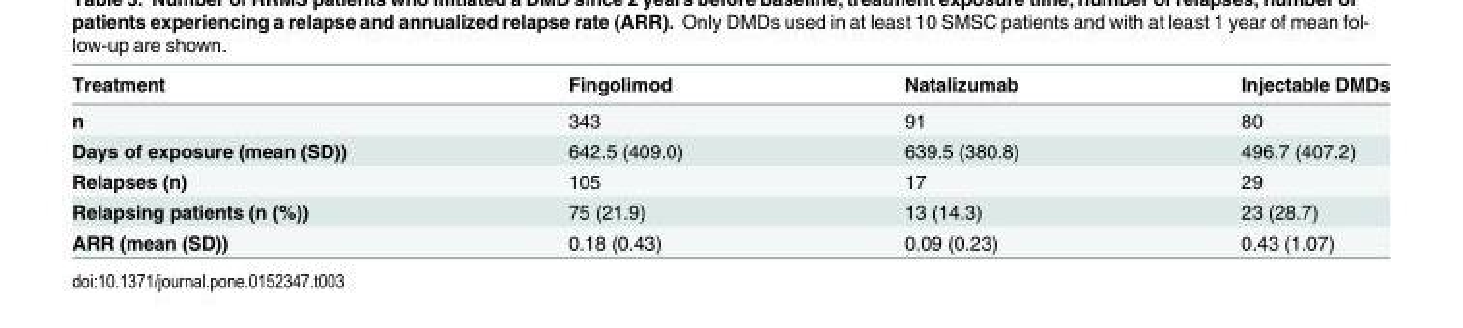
<table><thead><tr><td>Treatment</td><td>Fingolimod</td><td>Natalizumab</td><td>Injectable DMDs</td></tr></thead><tbody><tr><td>n</td><td>343</td><td>91</td><td>80</td></tr><tr><td>Days of exposure (mean (SD))</td><td>642.5 (409.0)</td><td>639.5 (380.8)</td><td>496.7 (407.2)</td></tr><tr><td>Relapses (n)</td><td>105</td><td>17</td><td>29</td></tr><tr><td>Relapsing patients (n (%))</td><td>75 (21.9)</td><td>13 (14.3)</td><td>23 (28.7)</td></tr><tr><td>ARR (mean (SD))</td><td>0.18 (0.43)</td><td>0.09 (0.23)</td><td>0.43 (1.07)</td></tr></tbody></table>